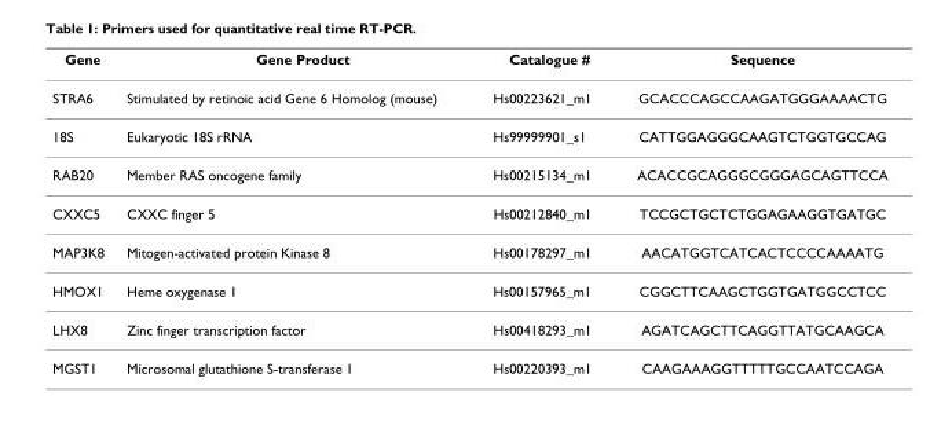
<table><thead><tr><td>Gene</td><td>Gene Product</td><td>Catalogue #</td><td>Sequence</td></tr></thead><tbody><tr><td>STRA6</td><td>Stimulated by retinoic acid Gene 6 Homolog (mouse)</td><td>Hs00223621_m1</td><td>GCACCCAGCCAAGATGGGAAAACTG</td></tr><tr><td>18S</td><td>Eukaryotic 18S rRNA</td><td>Hs99999901_s1</td><td>CATTGGAGGGCAAGTCTGGTGCCAG</td></tr><tr><td>RAB20</td><td>Member RAS oncogene family</td><td>Hs00215134_m1</td><td>ACACCGCAGGGCGGGAGCAGTTCCA</td></tr><tr><td>CXXC5</td><td>CXXC finger 5</td><td>Hs00212840_m1</td><td>TCCGCTGCTCTGGAGAAGGTGATGC</td></tr><tr><td>MAP3K8</td><td>Mitogen-activated protein Kinase 8</td><td>Hs00178297_m1</td><td>AACATGGTCATCACTCCCCAAAATG</td></tr><tr><td>HMOX1</td><td>Heme oxygenase 1</td><td>Hs00157965_m1</td><td>CGGCTTCAAGCTGGTGATGGCCTCC</td></tr><tr><td>LHX8</td><td>Zinc finger transcription factor</td><td>Hs00418293_m1</td><td>AGATCAGCTTCAGGTTATGCAAGCA</td></tr><tr><td>MGST1</td><td>Microsomal glutathione S-transferase 1</td><td>Hs00220393_m1</td><td>CAAGAAAGGTTTTTGCCAATCCAGA</td></tr></tbody></table>